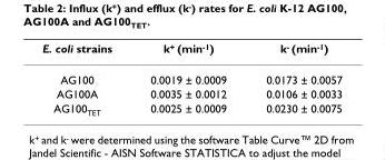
<table><thead><tr><td>E. coli strains</td><td>k<sup>+</sup> (min<sup>-1</sup>)</td><td>k<sup>-</sup> (min<sup>-1</sup>)</td></tr></thead><tbody><tr><td>AG100</td><td>0.0019 ± 0.0009</td><td>0.0173 ± 0.0057</td></tr><tr><td>AG100A</td><td>0.0035 ± 0.0012</td><td>0.0106 ± 0.0033</td></tr><tr><td>AG100<sub>TET</sub></td><td>0.0025 ± 0.0009</td><td>0.0230 ± 0.0075</td></tr></tbody></table>